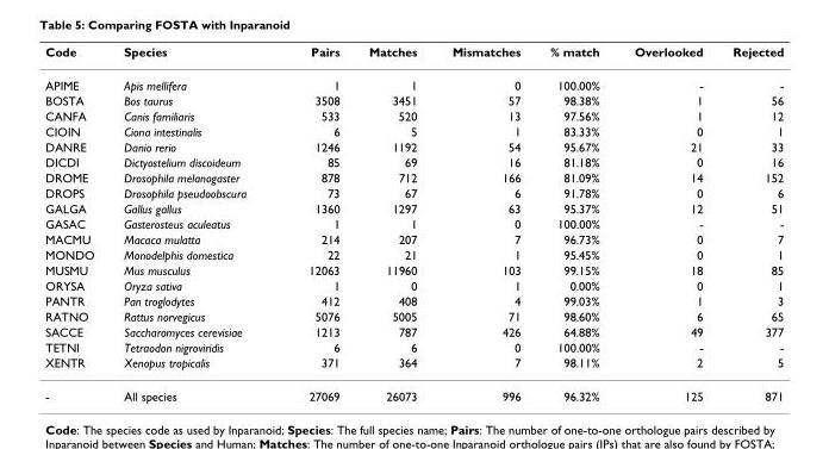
<table><thead><tr><td>Code</td><td>Species</td><td>Pairs</td><td>Matches</td><td>Mismatches</td><td>% match</td><td>Overlooked</td><td>Rejected</td></tr></thead><tbody><tr><td>APIME</td><td>Apis mellifera</td><td>1</td><td>1</td><td>0</td><td>100.00%</td><td>-</td><td>-</td></tr><tr><td>BOSTA</td><td>Bos taurus</td><td>3508</td><td>3451</td><td>57</td><td>98.38%</td><td>1</td><td>56</td></tr><tr><td>CANFA</td><td>Canis familiaris</td><td>533</td><td>520</td><td>13</td><td>97.56%</td><td>1</td><td>12</td></tr><tr><td>CIOIN</td><td>Ciona intestinalis</td><td>6</td><td>5</td><td>1</td><td>83.33%</td><td>0</td><td>1</td></tr><tr><td>DANRE</td><td>Danio rerio</td><td>1246</td><td>1192</td><td>54</td><td>95.67%</td><td>21</td><td>33</td></tr><tr><td>DICDI</td><td>Dictyostelium discoideum</td><td>85</td><td>69</td><td>16</td><td>81.18%</td><td>0</td><td>16</td></tr><tr><td>DROME</td><td>Drosophila melanogaster</td><td>878</td><td>712</td><td>166</td><td>81.09%</td><td>14</td><td>152</td></tr><tr><td>DROPS</td><td>Drosophila pseudoobscura</td><td>73</td><td>67</td><td>6</td><td>91.78%</td><td>0</td><td>6</td></tr><tr><td>GALGA</td><td>Gallus gallus</td><td>1360</td><td>1297</td><td>63</td><td>95.37%</td><td>12</td><td>51</td></tr><tr><td>GASAC</td><td>Gasterosteus aculeatus</td><td>1</td><td>1</td><td>0</td><td>100.00%</td><td>-</td><td>-</td></tr><tr><td>MACMU</td><td>Macaca mulatta</td><td>214</td><td>207</td><td>7</td><td>96.73%</td><td>0</td><td>7</td></tr><tr><td>MONDO</td><td>Monodelphis domestica</td><td>22</td><td>21</td><td>1</td><td>95.45%</td><td>0</td><td>1</td></tr><tr><td>MUSMU</td><td>Mus musculus</td><td>12063</td><td>11960</td><td>103</td><td>99.15%</td><td>18</td><td>85</td></tr><tr><td>ORYSA</td><td>Oryza sativa</td><td>1</td><td>0</td><td>1</td><td>0.00%</td><td>0</td><td>1</td></tr><tr><td>PANTR</td><td>Pan troglodytes</td><td>412</td><td>408</td><td>4</td><td>99.03%</td><td>1</td><td>3</td></tr><tr><td>RATNO</td><td>Rattus norvegicus</td><td>5076</td><td>5005</td><td>71</td><td>98.60%</td><td>6</td><td>65</td></tr><tr><td>SACCE</td><td>Saccharomyces cerevisiae</td><td>1213</td><td>787</td><td>426</td><td>64.88%</td><td>49</td><td>377</td></tr><tr><td>TETNI</td><td>Tetraodon nigroviridis</td><td>6</td><td>6</td><td>0</td><td>100.00%</td><td>-</td><td>-</td></tr><tr><td>XENTR</td><td>Xenopus tropicalis</td><td>371</td><td>364</td><td>7</td><td>98.11%</td><td>2</td><td>5</td></tr><tr><td>-</td><td>All species</td><td>27069</td><td>26073</td><td>996</td><td>96.32%</td><td>125</td><td>871</td></tr></tbody></table>